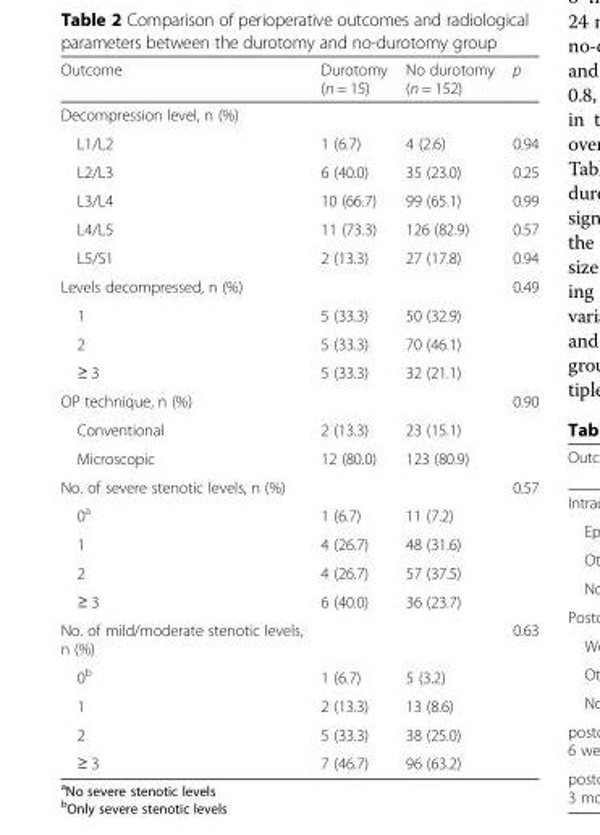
<table><thead><tr><td>Outcome</td><td>Durotomy (n = 15)</td><td>No durotomy (n = 152)</td><td>p</td></tr></thead><tbody><tr><td colspan="4">Decompression level, n (%)</td></tr><tr><td>L1/L2</td><td>1 (6.7)</td><td>4 (2.6)</td><td>0.94</td></tr><tr><td>L2/L3</td><td>6 (40.0)</td><td>35 (23.0)</td><td>0.25</td></tr><tr><td>L3/L4</td><td>10 (66.7)</td><td>99 (65.1)</td><td>0.99</td></tr><tr><td>L4/L5</td><td>11 (73.3)</td><td>126 (82.9)</td><td>0.57</td></tr><tr><td>L5/S1</td><td>2 (13.3)</td><td>27 (17.8)</td><td>0.94</td></tr><tr><td>Levels decompressed, n (%)</td><td></td><td></td><td>0.49</td></tr><tr><td>1</td><td>5 (33.3)</td><td>50 (32.9)</td><td></td></tr><tr><td>2</td><td>5 (33.3)</td><td>70 (46.1)</td><td></td></tr><tr><td>≥ 3</td><td>5 (33.3)</td><td>32 (21.1)</td><td></td></tr><tr><td>OP technique, n (%)</td><td></td><td></td><td>0.90</td></tr><tr><td>Conventional</td><td>2 (13.3)</td><td>23 (15.1)</td><td></td></tr><tr><td>Microscopic</td><td>12 (80.0)</td><td>123 (80.9)</td><td></td></tr><tr><td>No. of severe stenotic levels, n (%)</td><td></td><td></td><td>0.57</td></tr><tr><td>0<sup>a</sup></td><td>1 (6.7)</td><td>11 (7.2)</td><td></td></tr><tr><td>1</td><td>4 (26.7)</td><td>48 (31.6)</td><td></td></tr><tr><td>2</td><td>4 (26.7)</td><td>57 (37.5)</td><td></td></tr><tr><td>≥ 3</td><td>6 (40.0)</td><td>36 (23.7)</td><td></td></tr><tr><td>No. of mild/moderate stenotic levels, n (%)</td><td></td><td></td><td>0.63</td></tr><tr><td>0<sup>b</sup></td><td>1 (6.7)</td><td>5 (3.2)</td><td></td></tr><tr><td>1</td><td>2 (13.3)</td><td>13 (8.6)</td><td></td></tr><tr><td>2</td><td>5 (33.3)</td><td>38 (25.0)</td><td></td></tr><tr><td>≥ 3</td><td>7 (46.7)</td><td>96 (63.2)</td><td></td></tr></tbody></table>